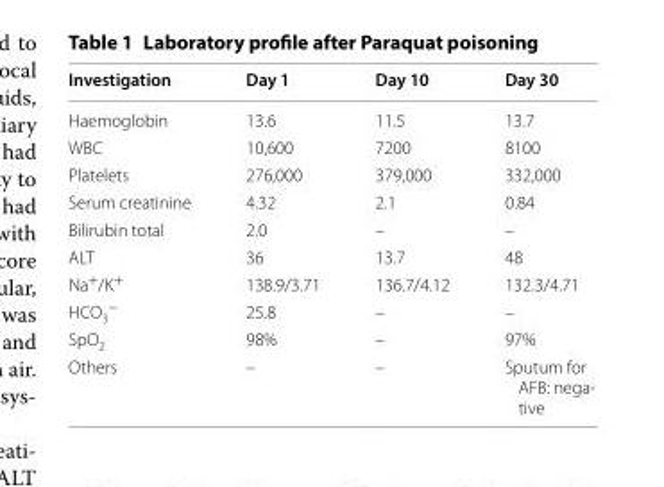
<table><thead><tr><td>Investigation</td><td>Day 1</td><td>Day 10</td><td>Day 30</td></tr></thead><tbody><tr><td>Haemoglobin</td><td>13.6</td><td>11.5</td><td>13.7</td></tr><tr><td>WBC</td><td>10,600</td><td>7200</td><td>8100</td></tr><tr><td>Platelets</td><td>276,000</td><td>379,000</td><td>332,000</td></tr><tr><td>Serum creatinine</td><td>4.32</td><td>2.1</td><td>0.84</td></tr><tr><td>Bilirubin total</td><td>2.0</td><td>–</td><td>–</td></tr><tr><td>ALT</td><td>36</td><td>13.7</td><td>48</td></tr><tr><td>Na<sup>+</sup>/K<sup>+</sup></td><td>138.9/3.71</td><td>136.7/4.12</td><td>132.3/4.71</td></tr><tr><td>HCO<sub>3</sub> <sup>−</sup></td><td>25.8</td><td>–</td><td>–</td></tr><tr><td>SpO<sub>2</sub></td><td>98%</td><td>–</td><td>97%</td></tr><tr><td>Others</td><td>–</td><td>–</td><td>Sputum for AFB: nega- tive</td></tr></tbody></table>